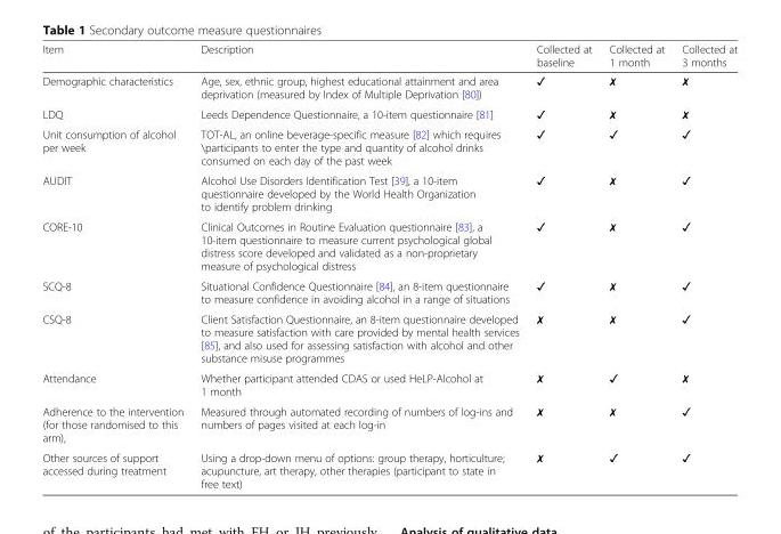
<table><thead><tr><td>Item</td><td>Description</td><td>Collected at baseline</td><td>Collected at 1 month</td><td>Collected at 3 months</td></tr></thead><tbody><tr><td>Demographic characteristics</td><td>Age, sex, ethnic group, highest educational attainment and area deprivation (measured by Index of Multiple Deprivation [80])</td><td>✓</td><td>✗</td><td>✗</td></tr><tr><td>LDQ</td><td>Leeds Dependence Questionnaire, a 10-item questionnaire [81]</td><td>✓</td><td>✗</td><td>✗</td></tr><tr><td>Unit consumption of alcohol per week</td><td>TOT-AL, an online beverage-specific measure [82] which requires \participants to enter the type and quantity of alcohol drinks consumed on each day of the past week</td><td>✓</td><td>✓</td><td>✓</td></tr><tr><td>AUDIT</td><td>Alcohol Use Disorders Identification Test [39], a 10-item questionnaire developed by the World Health Organization to identify problem drinking</td><td>✓</td><td>✗</td><td>✓</td></tr><tr><td>CORE-10</td><td>Clinical Outcomes in Routine Evaluation questionnaire [83], a 10-item questionnaire to measure current psychological global distress score developed and validated as a non-proprietary measure of psychological distress</td><td>✓</td><td>✗</td><td>✓</td></tr><tr><td>SCQ-8</td><td>Situational Confidence Questionnaire [84], an 8-item questionnaire to measure confidence in avoiding alcohol in a range of situations</td><td>✓</td><td>✗</td><td>✓</td></tr><tr><td>CSQ-8</td><td>Client Satisfaction Questionnaire, an 8-item questionnaire developed to measure satisfaction with care provided by mental health services [85], and also used for assessing satisfaction with alcohol and other substance misuse programmes</td><td>✗</td><td>✗</td><td>✓</td></tr><tr><td>Attendance</td><td>Whether participant attended CDAS or used HeLP-Alcohol at 1 month</td><td>✗</td><td>✓</td><td>✗</td></tr><tr><td>Adherence to the intervention (for those randomised to this arm),</td><td>Measured through automated recording of numbers of log-ins and numbers of pages visited at each log-in</td><td>✗</td><td>✗</td><td>✓</td></tr><tr><td>Other sources of support accessed during treatment</td><td>Using a drop-down menu of options: group therapy, horticulture; acupuncture, art therapy, other therapies (participant to state in free text)</td><td>✗</td><td>✓</td><td>✓</td></tr></tbody></table>